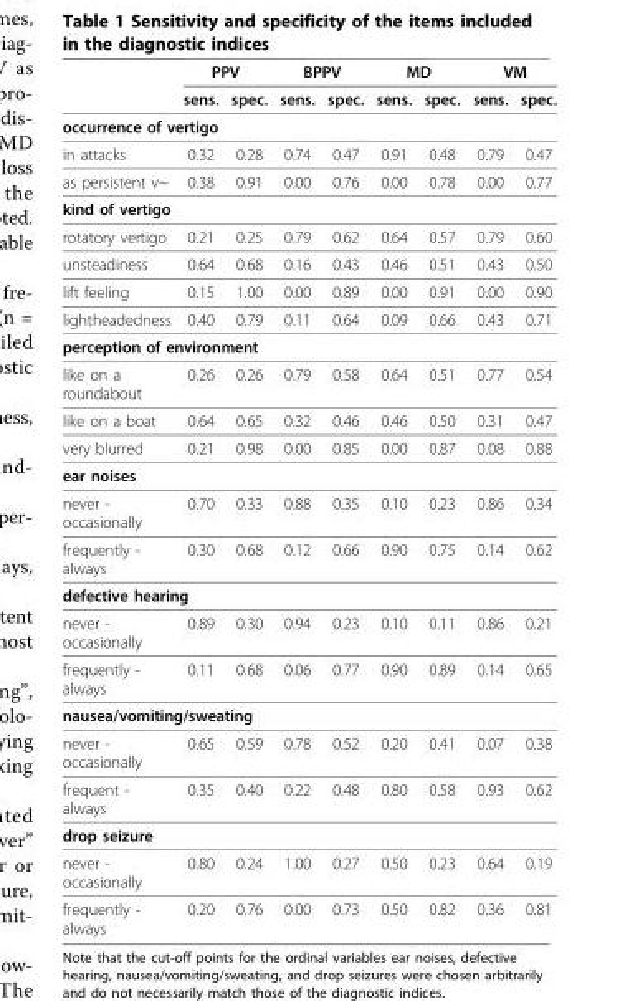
<table><thead><tr><td rowspan="2"></td><td colspan="2">PPV</td><td colspan="2">BPPV</td><td colspan="2">MD</td><td colspan="2">VM</td></tr><tr><td>sens.</td><td>spec.</td><td>sens.</td><td>spec.</td><td>sens.</td><td>spec.</td><td>sens.</td><td>spec.</td></tr></thead><tbody><tr><td colspan="9">occurrence of vertigo</td></tr><tr><td>in attacks</td><td>0.32</td><td>0.28</td><td>0.74</td><td>0.47</td><td>0.91</td><td>0.48</td><td>0.79</td><td>0.47</td></tr><tr><td>as persistent v~</td><td>0.38</td><td>0.91</td><td>0.00</td><td>0.76</td><td>0.00</td><td>0.78</td><td>0.00</td><td>0.77</td></tr><tr><td colspan="9">kind of vertigo</td></tr><tr><td>rotatory vertigo</td><td>0.21</td><td>0.25</td><td>0.79</td><td>0.62</td><td>0.64</td><td>0.57</td><td>0.79</td><td>0.60</td></tr><tr><td>unsteadiness</td><td>0.64</td><td>0.68</td><td>0.16</td><td>0.43</td><td>0.46</td><td>0.51</td><td>0.43</td><td>0.50</td></tr><tr><td>lift feeling</td><td>0.15</td><td>1.00</td><td>0.00</td><td>0.89</td><td>0.00</td><td>0.91</td><td>0.00</td><td>0.90</td></tr><tr><td>lightheadedness</td><td>0.40</td><td>0.79</td><td>0.11</td><td>0.64</td><td>0.09</td><td>0.66</td><td>0.43</td><td>0.71</td></tr><tr><td colspan="9">perception of environment</td></tr><tr><td>like on a roundabout</td><td>0.26</td><td>0.26</td><td>0.79</td><td>0.58</td><td>0.64</td><td>0.51</td><td>0.77</td><td>0.54</td></tr><tr><td>like on a boat</td><td>0.64</td><td>0.65</td><td>0.32</td><td>0.46</td><td>0.46</td><td>0.50</td><td>0.31</td><td>0.47</td></tr><tr><td>very blurred</td><td>0.21</td><td>0.98</td><td>0.00</td><td>0.85</td><td>0.00</td><td>0.87</td><td>0.08</td><td>0.88</td></tr><tr><td colspan="9">ear noises</td></tr><tr><td>never - occasionally</td><td>0.70</td><td>0.33</td><td>0.88</td><td>0.35</td><td>0.10</td><td>0.23</td><td>0.86</td><td>0.34</td></tr><tr><td>frequently - always</td><td>0.30</td><td>0.68</td><td>0.12</td><td>0.66</td><td>0.90</td><td>0.75</td><td>0.14</td><td>0.62</td></tr><tr><td colspan="9">defective hearing</td></tr><tr><td>never - occasionally</td><td>0.89</td><td>0.30</td><td>0.94</td><td>0.23</td><td>0.10</td><td>0.11</td><td>0.86</td><td>0.21</td></tr><tr><td>frequently - always</td><td>0.11</td><td>0.68</td><td>0.06</td><td>0.77</td><td>0.90</td><td>0.89</td><td>0.14</td><td>0.65</td></tr><tr><td colspan="9">nausea/vomiting/sweating</td></tr><tr><td>never - occasionally</td><td>0.65</td><td>0.59</td><td>0.78</td><td>0.52</td><td>0.20</td><td>0.41</td><td>0.07</td><td>0.38</td></tr><tr><td>frequent - always</td><td>0.35</td><td>0.40</td><td>0.22</td><td>0.48</td><td>0.80</td><td>0.58</td><td>0.93</td><td>0.62</td></tr><tr><td colspan="9">drop seizure</td></tr><tr><td>never - occasionally</td><td>0.80</td><td>0.24</td><td>1.00</td><td>0.27</td><td>0.50</td><td>0.23</td><td>0.64</td><td>0.19</td></tr><tr><td>frequently - always</td><td>0.20</td><td>0.76</td><td>0.00</td><td>0.73</td><td>0.50</td><td>0.82</td><td>0.36</td><td>0.81</td></tr></tbody></table>